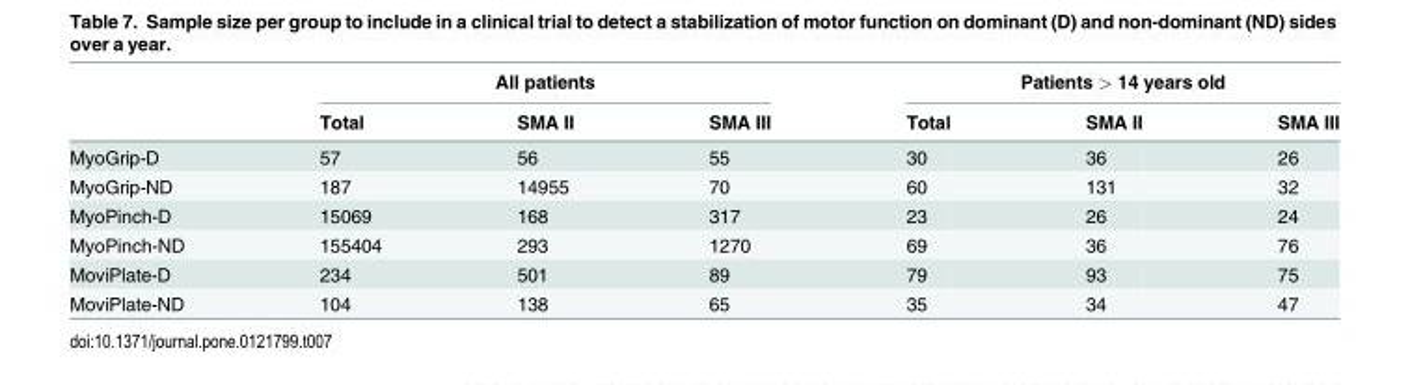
<table><thead><tr><td rowspan="2"></td><td colspan="3">All patients</td><td colspan="3">Patients &gt; 14 years old</td></tr><tr><td>Total</td><td>SMA II</td><td>SMA III</td><td>Total</td><td>SMA II</td><td>SMA III</td></tr></thead><tbody><tr><td>MyoGrip-D</td><td>57</td><td>56</td><td>55</td><td>30</td><td>36</td><td>26</td></tr><tr><td>MyoGrip-ND</td><td>187</td><td>14955</td><td>70</td><td>60</td><td>131</td><td>32</td></tr><tr><td>MyoPinch-D</td><td>15069</td><td>168</td><td>317</td><td>23</td><td>26</td><td>24</td></tr><tr><td>MyoPinch-ND</td><td>155404</td><td>293</td><td>1270</td><td>69</td><td>36</td><td>76</td></tr><tr><td>MoviPlate-D</td><td>234</td><td>501</td><td>89</td><td>79</td><td>93</td><td>75</td></tr><tr><td>MoviPlate-ND</td><td>104</td><td>138</td><td>65</td><td>35</td><td>34</td><td>47</td></tr></tbody></table>